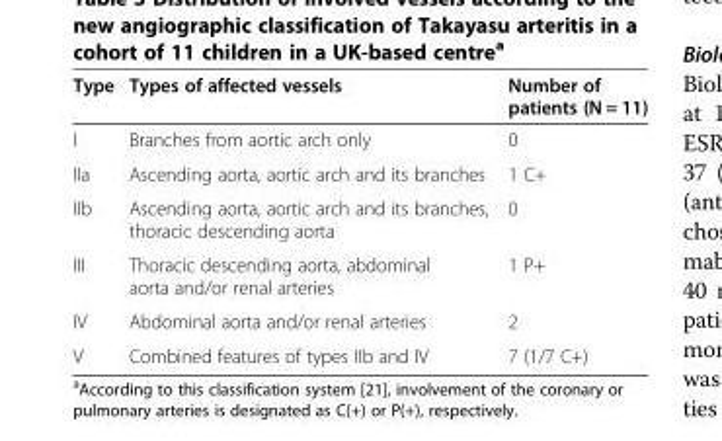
<table><thead><tr><td>Type</td><td>Types of affected vessels</td><td>Number of patients (N = 11)</td></tr></thead><tbody><tr><td>I</td><td>Branches from aortic arch only</td><td>0</td></tr><tr><td>IIa</td><td>Ascending aorta, aortic arch and its branches</td><td>1 C+</td></tr><tr><td>IIb</td><td>Ascending aorta, aortic arch and its branches, thoracic descending aorta</td><td>0</td></tr><tr><td>III</td><td>Thoracic descending aorta, abdominal aorta and/or renal arteries</td><td>1 P+</td></tr><tr><td>IV</td><td>Abdominal aorta and/or renal arteries</td><td>2</td></tr><tr><td>V</td><td>Combined features of types IIb and IV</td><td>7 (1/7 C+)</td></tr></tbody></table>